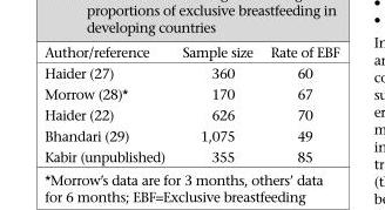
<table><thead><tr><td>Author/reference</td><td>Sample size</td><td>Rate of EBF</td></tr></thead><tbody><tr><td>Haider (27)</td><td>360</td><td>60</td></tr><tr><td>Morrow (28)*</td><td>170</td><td>67</td></tr><tr><td>Haider (22)</td><td>626</td><td>70</td></tr><tr><td>Bhandari (29)</td><td>1,075</td><td>49</td></tr><tr><td>Kabir (unpublished)</td><td>355</td><td>85</td></tr></tbody></table>